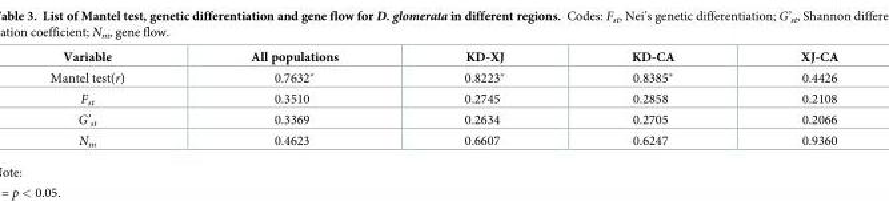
<table><thead><tr><td>Variable</td><td>All populations</td><td>KD-XJ</td><td>KD-CA</td><td>XJ-CA</td></tr></thead><tbody><tr><td>Mantel test(r)</td><td>0.7632*</td><td>0.8223*</td><td>0.8385*</td><td>0.4426</td></tr><tr><td>F<sub>st</sub></td><td>0.3510</td><td>0.2745</td><td>0.2858</td><td>0.2108</td></tr><tr><td>G’<sub>st</sub></td><td>0.3369</td><td>0.2634</td><td>0.2705</td><td>0.2066</td></tr><tr><td>N<sub>m</sub></td><td>0.4623</td><td>0.6607</td><td>0.6247</td><td>0.9360</td></tr></tbody></table>